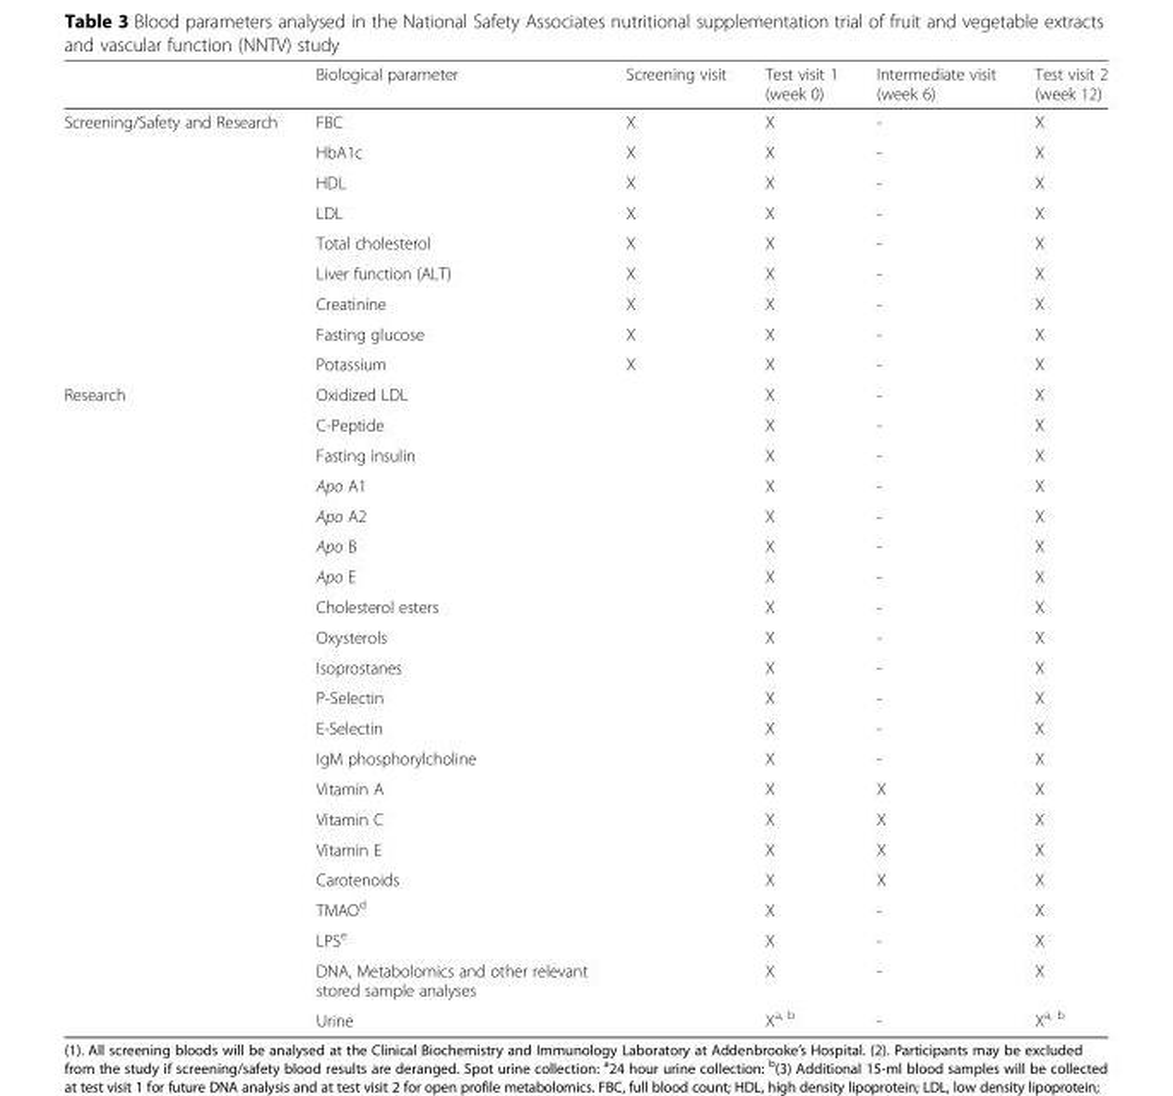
<table><thead><tr><td></td><td>Biological parameter</td><td>Screening visit</td><td>Test visit 1 (week 0)</td><td>Intermediate visit (week 6)</td><td>Test visit 2 (week 12)</td></tr></thead><tbody><tr><td rowspan="9">Screening/Safety and Research</td><td>FBC</td><td>X</td><td>X</td><td>-</td><td>X</td></tr><tr><td>HbA1c</td><td>X</td><td>X</td><td>-</td><td>X</td></tr><tr><td>HDL</td><td>X</td><td>X</td><td>-</td><td>X</td></tr><tr><td>LDL</td><td>X</td><td>X</td><td>-</td><td>X</td></tr><tr><td>Total cholesterol</td><td>X</td><td>X</td><td>-</td><td>X</td></tr><tr><td>Liver function (ALT)</td><td>X</td><td>X</td><td>-</td><td>X</td></tr><tr><td>Creatinine</td><td>X</td><td>X</td><td>-</td><td>X</td></tr><tr><td>Fasting glucose</td><td>X</td><td>X</td><td>-</td><td>X</td></tr><tr><td>Potassium</td><td>X</td><td>X</td><td>-</td><td>X</td></tr><tr><td rowspan="21">Research</td><td>Oxidized LDL</td><td></td><td>X</td><td>-</td><td>X</td></tr><tr><td>C-Peptide</td><td></td><td>X</td><td>-</td><td>X</td></tr><tr><td>Fasting insulin</td><td></td><td>X</td><td>-</td><td>X</td></tr><tr><td>Apo A1</td><td></td><td>X</td><td>-</td><td>X</td></tr><tr><td>Apo A2</td><td></td><td>X</td><td>-</td><td>X</td></tr><tr><td>Apo B</td><td></td><td>X</td><td>-</td><td>X</td></tr><tr><td>Apo E</td><td></td><td>X</td><td>-</td><td>X</td></tr><tr><td>Cholesterol esters</td><td></td><td>X</td><td>-</td><td>X</td></tr><tr><td>Oxysterols</td><td></td><td>X</td><td>-</td><td>X</td></tr><tr><td>Isoprostanes</td><td></td><td>X</td><td>-</td><td>X</td></tr><tr><td>P-Selectin</td><td></td><td>X</td><td>-</td><td>X</td></tr><tr><td>E-Selectin</td><td></td><td>X</td><td>-</td><td>X</td></tr><tr><td>IgM phosphorylcholine</td><td></td><td>X</td><td>-</td><td>X</td></tr><tr><td>Vitamin A</td><td></td><td>X</td><td>X</td><td>X</td></tr><tr><td>Vitamin C</td><td></td><td>X</td><td>X</td><td>X</td></tr><tr><td>Vitamin E</td><td></td><td>X</td><td>X</td><td>X</td></tr><tr><td>Carotenoids</td><td></td><td>X</td><td>X</td><td>X</td></tr><tr><td>TMAO<sup>d</sup></td><td></td><td>X</td><td>-</td><td>X</td></tr><tr><td>LPS<sup>e</sup></td><td></td><td>X</td><td>-</td><td>X</td></tr><tr><td>DNA, Metabolomics and other relevant stored sample analyses</td><td></td><td>X</td><td>-</td><td>X</td></tr><tr><td>Urine</td><td></td><td>X<sup>a, b</sup></td><td>-</td><td>X<sup>a, b</sup></td></tr></tbody></table>